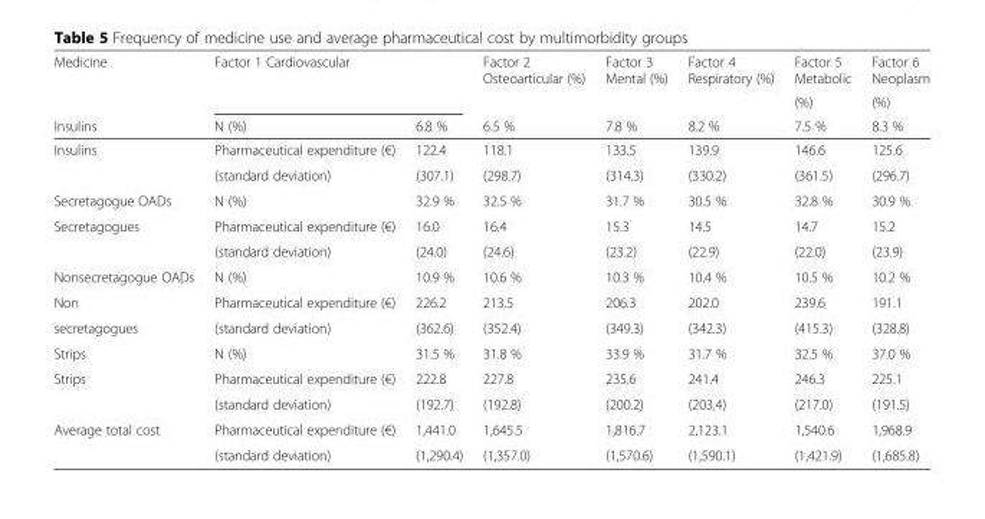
<table><thead><tr><td rowspan="3">Medicine Insulins</td><td rowspan="2" colspan="2">Factor 1 Cardiovascular</td><td rowspan="3">Factor 2 Osteoarticular (%) 6.5 %</td><td rowspan="3">Factor 3 Mental (%) 7.8 %</td><td rowspan="3">Factor 4 Respiratory (%) 8.2 %</td><td rowspan="3">Factor 5 Metabolic (%) 7.5 %</td><td rowspan="3">Factor 6 Neoplasm (%) 8.3 %</td></tr><tr></tr><tr><td>N (%)</td><td>6.8 %</td></tr></thead><tbody><tr><td rowspan="2">Insulins</td><td>Pharmaceutical expenditure (€)</td><td>122.4</td><td>118.1</td><td>133.5</td><td>139.9</td><td>146.6</td><td>125.6</td></tr><tr><td>(standard deviation)</td><td>(307.1)</td><td>(298.7)</td><td>(314.3)</td><td>(330.2)</td><td>(361.5)</td><td>(296.7)</td></tr><tr><td>Secretagogue OADs</td><td>N (%)</td><td>32.9 %</td><td>32.5 %</td><td>31.7 %</td><td>30.5 %</td><td>32.8 %</td><td>30.9 %</td></tr><tr><td rowspan="2">Secretagogues</td><td>Pharmaceutical expenditure (€)</td><td>16.0</td><td>16.4</td><td>15.3</td><td>14.5</td><td>14.7</td><td>15.2</td></tr><tr><td>(standard deviation)</td><td>(24.0)</td><td>(24.6)</td><td>(23.2)</td><td>(22.9)</td><td>(22.0)</td><td>(23.9)</td></tr><tr><td>Nonsecretagogue OADs</td><td>N (%)</td><td>10.9 %</td><td>10.6 %</td><td>10.3 %</td><td>10.4 %</td><td>10.5 %</td><td>10.2 %</td></tr><tr><td>Non</td><td>Pharmaceutical expenditure (€)</td><td>226.2</td><td>213.5</td><td>206.3</td><td>202.0</td><td>239.6</td><td>191.1</td></tr><tr><td>secretagogues</td><td>(standard deviation)</td><td>(362.6)</td><td>(352.4)</td><td>(349.3)</td><td>(342.3)</td><td>(415.3)</td><td>(328.8)</td></tr><tr><td>Strips</td><td>N (%)</td><td>31.5 %</td><td>31.8 %</td><td>33.9 %</td><td>31.7 %</td><td>32.5 %</td><td>37.0 %</td></tr><tr><td rowspan="2">Strips</td><td>Pharmaceutical expenditure (€)</td><td>222.8</td><td>227.8</td><td>235.6</td><td>241.4</td><td>246.3</td><td>225.1</td></tr><tr><td>(standard deviation)</td><td>(192.7)</td><td>(192.8)</td><td>(200.2)</td><td>(203.4)</td><td>(217.0)</td><td>(191.5)</td></tr><tr><td rowspan="2">Average total cost</td><td>Pharmaceutical expenditure (€)</td><td>1,441.0</td><td>1,645.5</td><td>1,816.7</td><td>2,123.1</td><td>1,540.6</td><td>1,968.9</td></tr><tr><td>(standard deviation)</td><td>(1,290.4)</td><td>(1,357.0)</td><td>(1,570.6)</td><td>(1,590.1)</td><td>(1,421.9)</td><td>(1,685.8)</td></tr></tbody></table>